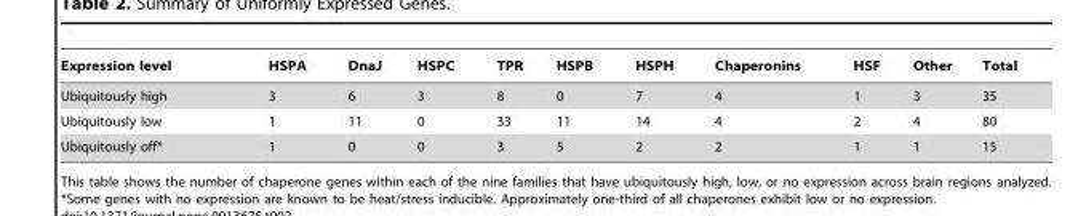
<table><thead><tr><td>Expression level</td><td>HSPA</td><td>DnaJ</td><td>HSPC</td><td>TPR</td><td>HSPB</td><td>HSPH</td><td>Chaperonins</td><td>HSF</td><td>Other</td><td>Total</td></tr></thead><tbody><tr><td>Ubiquitously high</td><td>3</td><td>6</td><td>3</td><td>8</td><td>0</td><td>7</td><td>4</td><td>1</td><td>3</td><td>35</td></tr><tr><td>Ubiquitously low</td><td>1</td><td>11</td><td>0</td><td>33</td><td>11</td><td>14</td><td>4</td><td>2</td><td>4</td><td>80</td></tr><tr><td>Ubiquitously off*</td><td>1</td><td>0</td><td>0</td><td>3</td><td>5</td><td>2</td><td>2</td><td>1</td><td>1</td><td>15</td></tr></tbody></table>